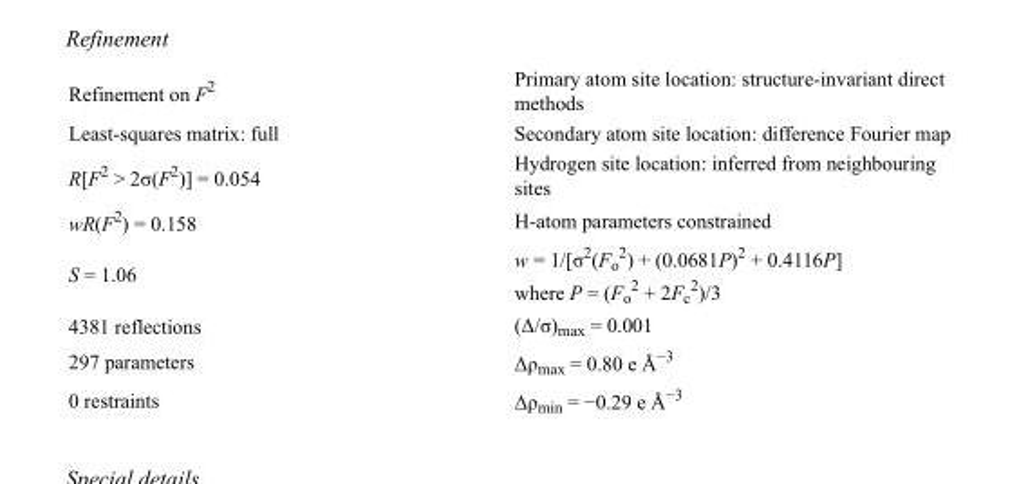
<table><tbody><tr><td>Refinement on F<sup>2</sup></td><td>Primary atom site location: structure-invariant direct methods</td></tr><tr><td>Least-squares matrix: full</td><td>Secondary atom site location: difference Fourier map</td></tr><tr><td>R[F<sup>2</sup> &gt; 2σ(F<sup>2</sup>)] = 0.054</td><td>Hydrogen site location: inferred from neighbouring sites</td></tr><tr><td>wR(F<sup>2</sup>) = 0.158</td><td>H-atom parameters constrained</td></tr><tr><td>S = 1.06</td><td>w = 1/[σ<sup>2</sup>(F<sub>o</sub> <sup>2</sup>) + (0.0681P)<sup>2</sup> + 0.4116P] where P = (F<sub>o</sub> <sup>2</sup> + 2F<sub>c</sub> <sup>2</sup>)/3</td></tr><tr><td>4381 reflections</td><td>(Δ/σ)<sub>max</sub> = 0.001</td></tr><tr><td>297 parameters</td><td>Δρ<sub>max</sub> = 0.80 e Å<sup>−3</sup></td></tr><tr><td>0 restraints</td><td>Δρ<sub>min</sub> = −0.29 e Å<sup>−3</sup></td></tr></tbody></table>